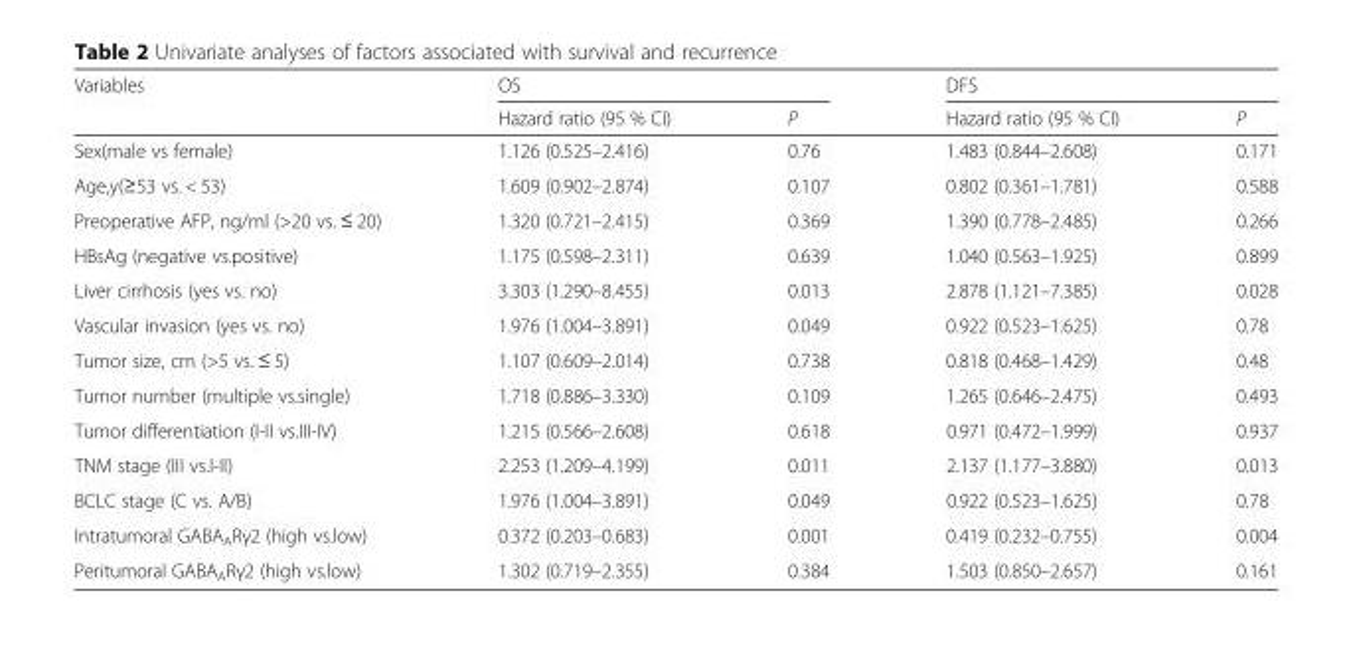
<table><thead><tr><td rowspan="2">Variables</td><td colspan="2">OS</td><td colspan="2">DFS</td></tr><tr><td>Hazard ratio (95 % CI)</td><td>P</td><td>Hazard ratio (95 % CI)</td><td>P</td></tr></thead><tbody><tr><td>Sex(male vs female)</td><td>1.126 (0.525–2.416)</td><td>0.76</td><td>1.483 (0.844–2.608)</td><td>0.171</td></tr><tr><td>Age,y(≥53 vs. &lt; 53)</td><td>1.609 (0.902–2.874)</td><td>0.107</td><td>0.802 (0.361–1.781)</td><td>0.588</td></tr><tr><td>Preoperative AFP, ng/ml (&gt;20 vs. ≤ 20)</td><td>1.320 (0.721–2.415)</td><td>0.369</td><td>1.390 (0.778–2.485)</td><td>0.266</td></tr><tr><td>HBsAg (negative vs.positive)</td><td>1.175 (0.598–2.311)</td><td>0.639</td><td>1.040 (0.563–1.925)</td><td>0.899</td></tr><tr><td>Liver cirrhosis (yes vs. no)</td><td>3.303 (1.290–8.455)</td><td>0.013</td><td>2.878 (1.121–7.385)</td><td>0.028</td></tr><tr><td>Vascular invasion (yes vs. no)</td><td>1.976 (1.004–3.891)</td><td>0.049</td><td>0.922 (0.523–1.625)</td><td>0.78</td></tr><tr><td>Tumor size, cm (&gt;5 vs. ≤ 5)</td><td>1.107 (0.609–2.014)</td><td>0.738</td><td>0.818 (0.468–1.429)</td><td>0.48</td></tr><tr><td>Tumor number (multiple vs.single)</td><td>1.718 (0.886–3.330)</td><td>0.109</td><td>1.265 (0.646–2.475)</td><td>0.493</td></tr><tr><td>Tumor differentiation (I-II vs.III-IV)</td><td>1.215 (0.566–2.608)</td><td>0.618</td><td>0.971 (0.472–1.999)</td><td>0.937</td></tr><tr><td>TNM stage (III vs.I-II)</td><td>2.253 (1.209–4.199)</td><td>0.011</td><td>2.137 (1.177–3.880)</td><td>0.013</td></tr><tr><td>BCLC stage (C vs. A/B)</td><td>1.976 (1.004–3.891)</td><td>0.049</td><td>0.922 (0.523–1.625)</td><td>0.78</td></tr><tr><td>Intratumoral GABA<sub>A</sub>Rγ2 (high vs.low)</td><td>0.372 (0.203–0.683)</td><td>0.001</td><td>0.419 (0.232–0.755)</td><td>0.004</td></tr><tr><td>Peritumoral GABA<sub>A</sub>Rγ2 (high vs.low)</td><td>1.302 (0.719–2.355)</td><td>0.384</td><td>1.503 (0.850–2.657)</td><td>0.161</td></tr></tbody></table>